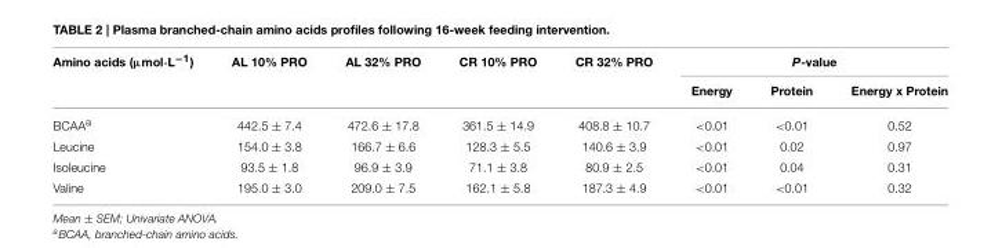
<table><thead><tr><td rowspan="2">Amino acids (µmol·L<sup>−1</sup>)</td><td rowspan="2">AL 10% PRO</td><td rowspan="2">AL 32% PRO</td><td rowspan="2">CR 10% PRO</td><td rowspan="2">CR 32% PRO</td><td colspan="3">P-value</td></tr><tr><td>Energy</td><td>Protein</td><td>Energy x Protein</td></tr></thead><tbody><tr><td>BCAA<sup>a</sup></td><td>442.5 ± 7.4</td><td>472.6 ± 17.8</td><td>361.5 ± 14.9</td><td>408.8 ± 10.7</td><td>&lt;0.01</td><td>&lt;0.01</td><td>0.52</td></tr><tr><td>Leucine</td><td>154.0 ± 3.8</td><td>166.7 ± 6.6</td><td>128.3 ± 5.5</td><td>140.6 ± 3.9</td><td>&lt;0.01</td><td>0.02</td><td>0.97</td></tr><tr><td>Isoleucine</td><td>93.5 ± 1.8</td><td>96.9 ± 3.9</td><td>71.1 ± 3.8</td><td>80.9 ± 2.5</td><td>&lt;0.01</td><td>0.04</td><td>0.31</td></tr><tr><td>Valine</td><td>195.0 ± 3.0</td><td>209.0 ± 7.5</td><td>162.1 ± 5.8</td><td>187.3 ± 4.9</td><td>&lt;0.01</td><td>&lt;0.01</td><td>0.32</td></tr></tbody></table>